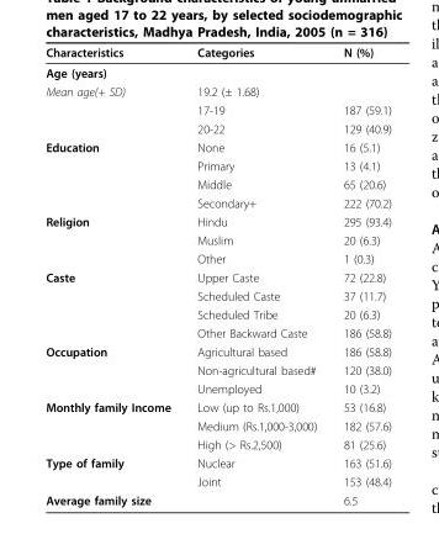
<table><thead><tr><td>Characteristics</td><td>Categories</td><td>N (%)</td></tr></thead><tbody><tr><td colspan="3">Age (years)</td></tr><tr><td rowspan="3">Mean age(+ SD)</td><td>19.2 (± 1.68)</td><td></td></tr><tr><td>17-19</td><td>187 (59.1)</td></tr><tr><td>20-22</td><td>129 (40.9)</td></tr><tr><td rowspan="4">Education</td><td>None</td><td>16 (5.1)</td></tr><tr><td>Primary</td><td>13 (4.1)</td></tr><tr><td>Middle</td><td>65 (20.6)</td></tr><tr><td>Secondary+</td><td>222 (70.2)</td></tr><tr><td rowspan="3">Religion</td><td>Hindu</td><td>295 (93.4)</td></tr><tr><td>Muslim</td><td>20 (6.3)</td></tr><tr><td>Other</td><td>1 (0.3)</td></tr><tr><td rowspan="4">Caste</td><td>Upper Caste</td><td>72 (22.8)</td></tr><tr><td>Scheduled Caste</td><td>37 (11.7)</td></tr><tr><td>Scheduled Tribe</td><td>20 (6.3)</td></tr><tr><td>Other Backward Caste</td><td>186 (58.8)</td></tr><tr><td rowspan="3">Occupation</td><td>Agricultural based</td><td>186 (58.8)</td></tr><tr><td>Non-agricultural based#</td><td>120 (38.0)</td></tr><tr><td>Unemployed</td><td>10 (3.2)</td></tr><tr><td rowspan="3">Monthly family Income</td><td>Low (up to Rs.1,000)</td><td>53 (16.8)</td></tr><tr><td>Medium (Rs.1,000-3,000)</td><td>182 (57.6)</td></tr><tr><td>High (&gt; Rs.2,500)</td><td>81 (25.6)</td></tr><tr><td rowspan="2">Type of family</td><td>Nuclear</td><td>163 (51.6)</td></tr><tr><td>Joint</td><td>153 (48.4)</td></tr><tr><td>Average family size</td><td></td><td>6.5</td></tr></tbody></table>